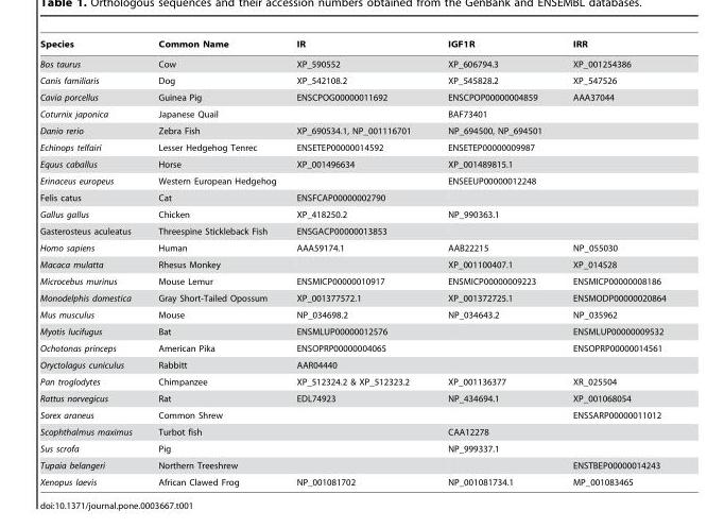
<table><thead><tr><td>Species</td><td>Common Name</td><td>IR</td><td>IGF1R</td><td>IRR</td></tr></thead><tbody><tr><td>Bos taurus</td><td>Cow</td><td>XP_590552</td><td>XP_606794.3</td><td>XP_001254386</td></tr><tr><td>Canis familiaris</td><td>Dog</td><td>XP_542108.2</td><td>XP_545828.2</td><td>XP_547526</td></tr><tr><td>Cavia porcellus</td><td>Guinea Pig</td><td>ENSCPOG00000011692</td><td>ENSCPOP00000004859</td><td>AAA37044</td></tr><tr><td>Coturnix japonica</td><td>Japanese Quail</td><td></td><td>BAF73401</td><td></td></tr><tr><td>Danio rerio</td><td>Zebra Fish</td><td>XP_690534.1, NP_001116701</td><td>NP_694500, NP_694501</td><td></td></tr><tr><td>Echinops telfairi</td><td>Lesser Hedgehog Tenrec</td><td>ENSETEP00000014592</td><td>ENSETEP00000009987</td><td></td></tr><tr><td>Equus caballus</td><td>Horse</td><td>XP_001496634</td><td>XP_001489815.1</td><td></td></tr><tr><td>Erinaceus europeus</td><td>Western European Hedgehog</td><td></td><td>ENSEEUP00000012248</td><td></td></tr><tr><td>Felis catus</td><td>Cat</td><td>ENSFCAP00000002790</td><td></td><td></td></tr><tr><td>Gallus gallus</td><td>Chicken</td><td>XP_418250.2</td><td>NP_990363.1</td><td></td></tr><tr><td>Gasterosteus aculeatus</td><td>Threespine Stickleback Fish</td><td>ENSGACP00000013853</td><td></td><td></td></tr><tr><td>Homo sapiens</td><td>Human</td><td>AAA59174.1</td><td>AAB22215</td><td>NP_055030</td></tr><tr><td>Macaca mulatta</td><td>Rhesus Monkey</td><td></td><td>XP_001100407.1</td><td>XP_014528</td></tr><tr><td>Microcebus murinus</td><td>Mouse Lemur</td><td>ENSMICP00000010917</td><td>ENSMICP00000009223</td><td>ENSMICP00000008186</td></tr><tr><td>Monodelphis domestica</td><td>Gray Short-Tailed Opossum</td><td>XP_001377572.1</td><td>XP_001372725.1</td><td>ENSMODP00000020864</td></tr><tr><td>Mus musculus</td><td>Mouse</td><td>NP_034698.2</td><td>NP_034643.2</td><td>NP_035962</td></tr><tr><td>Myotis lucifugus</td><td>Bat</td><td>ENSMLUP00000012576</td><td></td><td>ENSMLUP00000009532</td></tr><tr><td>Ochotonas princeps</td><td>American Pika</td><td>ENSOPRP00000004065</td><td></td><td>ENSOPRP00000014561</td></tr><tr><td>Oryctolagus cuniculus</td><td>Rabbitt</td><td>AAR04440</td><td></td><td></td></tr><tr><td>Pan troglodytes</td><td>Chimpanzee</td><td>XP_512324.2 &amp; XP_512323.2</td><td>XP_001136377</td><td>XR_025504</td></tr><tr><td>Rattus norvegicus</td><td>Rat</td><td>EDL74923</td><td>NP_434694.1</td><td>XP_001068054</td></tr><tr><td>Sorex araneus</td><td>Common Shrew</td><td></td><td></td><td>ENSSARP00000011012</td></tr><tr><td>Scophthalmus maximus</td><td>Turbot fish</td><td></td><td>CAA12278</td><td></td></tr><tr><td>Sus scrofa</td><td>Pig</td><td></td><td>NP_999337.1</td><td></td></tr><tr><td>Tupaia belangeri</td><td>Northern Treeshrew</td><td></td><td></td><td>ENSTBEP00000014243</td></tr><tr><td>Xenopus laevis</td><td>African Clawed Frog</td><td>NP_001081702</td><td>NP_001081734.1</td><td>MP_001083465</td></tr></tbody></table>